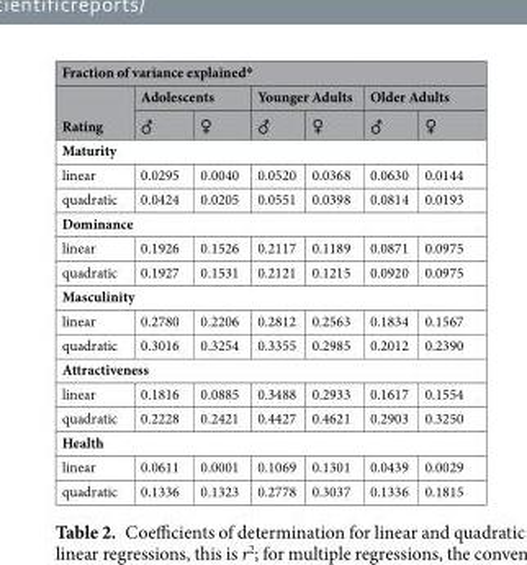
<table><thead><tr><td colspan="7">Fraction of variance explained*</td></tr><tr><td rowspan="2">Rating</td><td colspan="2">Adolescents</td><td colspan="2">Younger Adults</td><td colspan="2">Older Adults</td></tr><tr><td>♂</td><td>♀</td><td>♂</td><td>♀</td><td>♂</td><td>♀</td></tr></thead><tbody><tr><td colspan="7">Maturity</td></tr><tr><td>linear</td><td>0.0295</td><td>0.0040</td><td>0.0520</td><td>0.0368</td><td>0.0630</td><td>0.0144</td></tr><tr><td>quadratic</td><td>0.0424</td><td>0.0205</td><td>0.0551</td><td>0.0398</td><td>0.0814</td><td>0.0193</td></tr><tr><td colspan="7">Dominance</td></tr><tr><td>linear</td><td>0.1926</td><td>0.1526</td><td>0.2117</td><td>0.1189</td><td>0.0871</td><td>0.0975</td></tr><tr><td>quadratic</td><td>0.1927</td><td>0.1531</td><td>0.2121</td><td>0.1215</td><td>0.0920</td><td>0.0975</td></tr><tr><td colspan="7">Masculinity</td></tr><tr><td>linear</td><td>0.2780</td><td>0.2206</td><td>0.2812</td><td>0.2563</td><td>0.1834</td><td>0.1567</td></tr><tr><td>quadratic</td><td>0.3016</td><td>0.3254</td><td>0.3355</td><td>0.2985</td><td>0.2012</td><td>0.2390</td></tr><tr><td colspan="7">Attractiveness</td></tr><tr><td>linear</td><td>0.1816</td><td>0.0885</td><td>0.3488</td><td>0.2933</td><td>0.1617</td><td>0.1554</td></tr><tr><td>quadratic</td><td>0.2228</td><td>0.2421</td><td>0.4427</td><td>0.4621</td><td>0.2903</td><td>0.3250</td></tr><tr><td colspan="7">Health</td></tr><tr><td>linear</td><td>0.0611</td><td>0.0001</td><td>0.1069</td><td>0.1301</td><td>0.0439</td><td>0.0029</td></tr><tr><td>quadratic</td><td>0.1336</td><td>0.1323</td><td>0.2778</td><td>0.3037</td><td>0.1336</td><td>0.1815</td></tr></tbody></table>